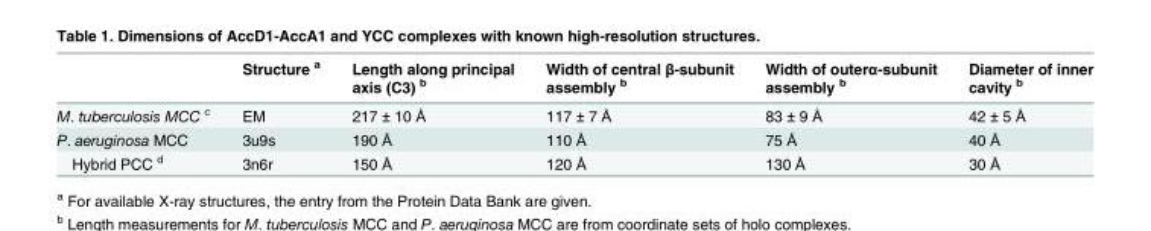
<table><thead><tr><td></td><td>Structure <sup>a</sup></td><td>Length along principal axis (C3) <sup>b</sup></td><td>Width of central β-subunit assembly <sup>b</sup></td><td>Width of outerα-subunit assembly <sup>b</sup></td><td>Diameter of inner cavity <sup>b</sup></td></tr></thead><tbody><tr><td>M. tuberculosis MCC <sup>c</sup></td><td>EM</td><td>217 ± 10 Å</td><td>117 ± 7 Å</td><td>83 ± 9 Å</td><td>42 ± 5 Å</td></tr><tr><td>P. aeruginosa MCC</td><td>3u9s</td><td>190 Å</td><td>110 Å</td><td>75 Å</td><td>40 Å</td></tr><tr><td>Hybrid PCC <sup>d</sup></td><td>3n6r</td><td>150 Å</td><td>120 Å</td><td>130 Å</td><td>30 Å</td></tr></tbody></table>